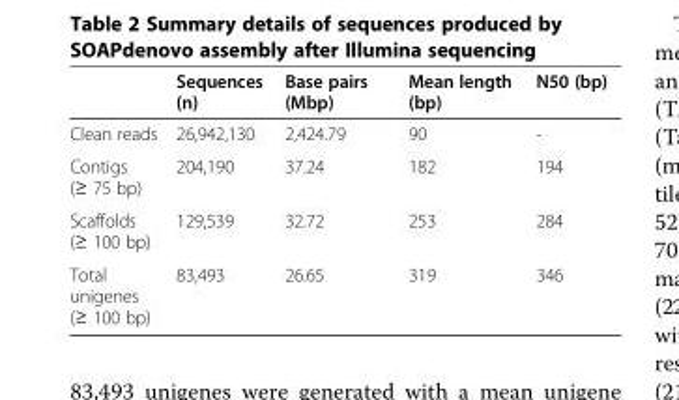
<table><thead><tr><td></td><td>Sequences (n)</td><td>Base pairs (Mbp)</td><td>Mean length (bp)</td><td>N50 (bp)</td></tr></thead><tbody><tr><td>Clean reads</td><td>26,942,130</td><td>2,424.79</td><td>90</td><td>-</td></tr><tr><td>Contigs (≥ 75 bp)</td><td>204,190</td><td>37.24</td><td>182</td><td>194</td></tr><tr><td>Scaffolds (≥ 100 bp)</td><td>129,539</td><td>32.72</td><td>253</td><td>284</td></tr><tr><td>Total unigenes (≥ 100 bp)</td><td>83,493</td><td>26.65</td><td>319</td><td>346</td></tr></tbody></table>